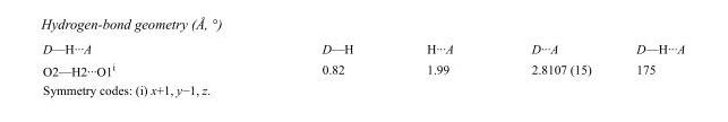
<table><tbody><tr><td>D—H···A</td><td>D—H</td><td>H···A</td><td>D···A</td><td>D—H···A</td></tr><tr><td>O2—H2···O1<sup>i</sup></td><td>0.82</td><td>1.99</td><td>2.8107 (15)</td><td>175</td></tr></tbody></table>